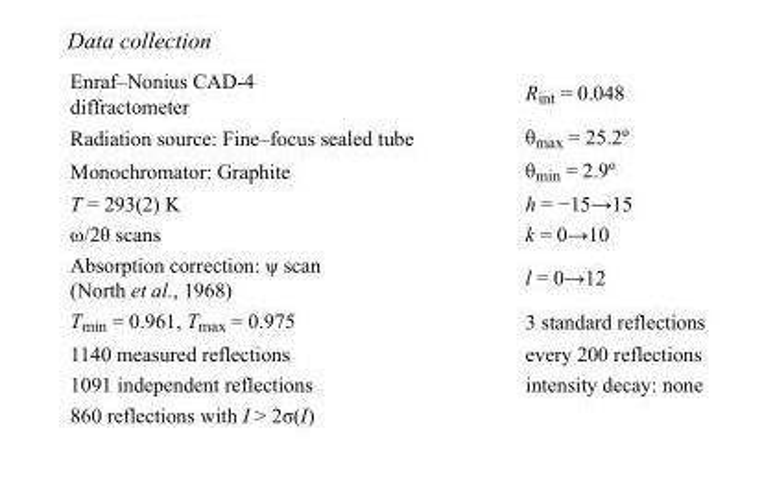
<table><tbody><tr><td>Enraf–Nonius CAD-4 diffractometer</td><td>R<sub>int</sub> = 0.048</td></tr><tr><td>Radiation source: Fine–focus sealed tube</td><td>θ<sub>max</sub> = 25.2º</td></tr><tr><td>Monochromator: Graphite</td><td>θ<sub>min</sub> = 2.9º</td></tr><tr><td>T = 293(2) K</td><td>h = −15→15</td></tr><tr><td>ω/2θ scans</td><td>k = 0→10</td></tr><tr><td>Absorption correction: ψ scan (North et al., 1968)</td><td>l = 0→12</td></tr><tr><td>T<sub>min</sub> = 0.961, T<sub>max</sub> = 0.975</td><td>3 standard reflections</td></tr><tr><td>1140 measured reflections</td><td>every 200 reflections</td></tr><tr><td>1091 independent reflections</td><td>intensity decay: none</td></tr><tr><td>860 reflections with I &gt; 2σ(I)</td><td></td></tr></tbody></table>